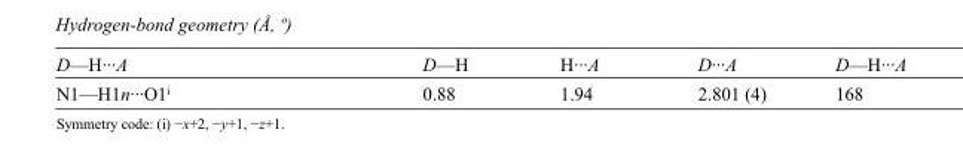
<table><tbody><tr><td>D—H···A</td><td>D—H</td><td>H···A</td><td>D···A</td><td>D—H···A</td></tr><tr><td>N1—H1n···O1<sup>i</sup></td><td>0.88</td><td>1.94</td><td>2.801 (4)</td><td>168</td></tr></tbody></table>